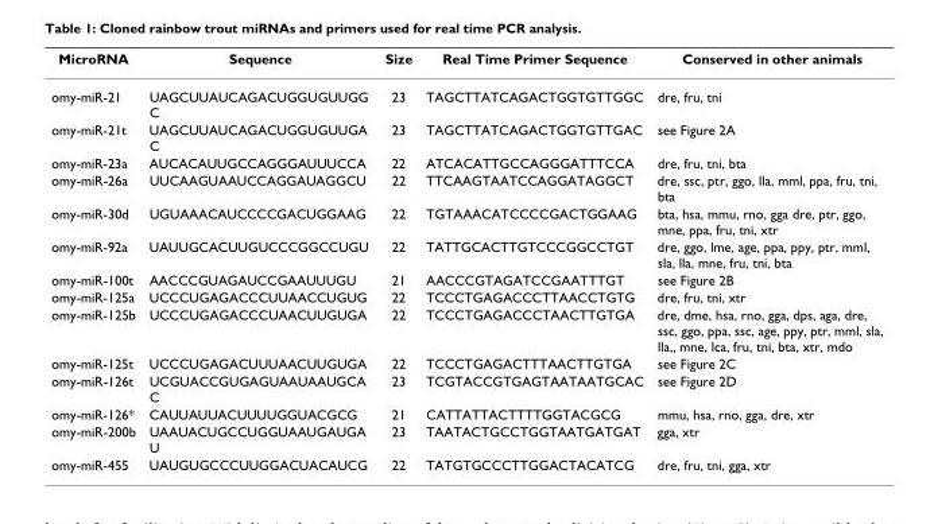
<table><thead><tr><td>MicroRNA</td><td>Sequence</td><td>Size</td><td>Real Time Primer Sequence</td><td>Conserved in other animals</td></tr></thead><tbody><tr><td>omy-miR-21</td><td>UAGCUUAUCAGACUGGUGUUGG C</td><td>23</td><td>TAGCTTATCAGACTGGTGTTGGC</td><td>dre, fru, tni</td></tr><tr><td>omy-miR-21t</td><td>UAGCUUAUCAGACUGGUGUUGA C</td><td>23</td><td>TAGCTTATCAGACTGGTGTTGAC</td><td>see Figure 2A</td></tr><tr><td>omy-miR-23a</td><td>AUCACAUUGCCAGGGAUUUCCA</td><td>22</td><td>ATCACATTGCCAGGGATTTCCA</td><td>dre, fru, tni, bta</td></tr><tr><td>omy-miR-26a</td><td>UUCAAGUAAUCCAGGAUAGGCU</td><td>22</td><td>TTCAAGTAATCCAGGATAGGCT</td><td>dre, ssc, ptr, ggo, lla, mml, ppa, fru, tni, bta</td></tr><tr><td>omy-miR-30d</td><td>UGUAAACAUCCCCGACUGGAAG</td><td>22</td><td>TGTAAACATCCCCGACTGGAAG</td><td>bta, hsa, mmu, rno, gga dre, ptr, ggo, mne, ppa, fru, tni, xtr</td></tr><tr><td>omy-miR-92a</td><td>UAUUGCACUUGUCCCGGCCUGU</td><td>22</td><td>TATTGCACTTGTCCCGGCCTGT</td><td>dre, ggo, lme, age, ppa, ppy, ptr, mml, sla, lla, mne, fru, tni, bta</td></tr><tr><td>omy-miR-100t</td><td>AACCCGUAGAUCCGAAUUUGU</td><td>21</td><td>AACCCGTAGATCCGAATTTGT</td><td>see Figure 2B</td></tr><tr><td>omy-miR-125a</td><td>UCCCUGAGACCCUUAACCUGUG</td><td>22</td><td>TCCCTGAGACCCTTAACCTGTG</td><td>dre, fru, tni, xtr</td></tr><tr><td>omy-miR-125b</td><td>UCCCUGAGACCCUAACUUGUGA</td><td>22</td><td>TCCCTGAGACCCTAACTTGTGA</td><td>dre, dme, hsa, rno, gga, dps, aga, dre, ssc, ggo, ppa, ssc, age, ppy, ptr, mml, sla, lla,, mne, lca, fru, tni, bta, xtr, mdo</td></tr><tr><td>omy-miR-125t</td><td>UCCCUGAGACUUUAACUUGUGA</td><td>22</td><td>TCCCTGAGACTTTAACTTGTGA</td><td>see Figure 2C</td></tr><tr><td>omy-miR-126t</td><td>UCGUACCGUGAGUAAUAAUGCA C</td><td>23</td><td>TCGTACCGTGAGTAATAATGCAC</td><td>see Figure 2D</td></tr><tr><td>omy-miR-126*</td><td>CAUUAUUACUUUUGGUACGCG</td><td>21</td><td>CATTATTACTTTTGGTACGCG</td><td>mmu, hsa, rno, gga, dre, xtr</td></tr><tr><td>omy-miR-200b</td><td>UAAUACUGCCUGGUAAUGAUGA U</td><td>23</td><td>TAATACTGCCTGGTAATGATGAT</td><td>gga, xtr</td></tr><tr><td>omy-miR-455</td><td>UAUGUGCCCUUGGACUACAUCG</td><td>22</td><td>TATGTGCCCTTGGACTACATCG</td><td>dre, fru, tni, gga, xtr</td></tr></tbody></table>